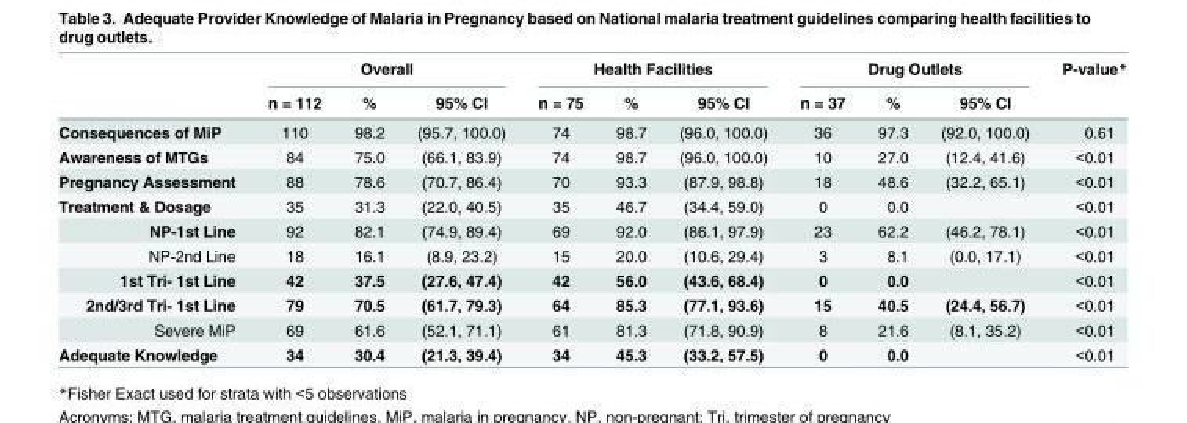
<table><thead><tr><td rowspan="2"></td><td colspan="3">Overall</td><td colspan="3">Health Facilities</td><td colspan="3">Drug Outlets</td><td rowspan="2">P-value*</td></tr><tr><td>n = 112</td><td>%</td><td>95% CI</td><td>n = 75</td><td>%</td><td>95% CI</td><td>n = 37</td><td>%</td><td>95% CI</td></tr></thead><tbody><tr><td>Consequences of MiP</td><td>110</td><td>98.2</td><td>(95.7, 100.0)</td><td>74</td><td>98.7</td><td>(96.0, 100.0)</td><td>36</td><td>97.3</td><td>(92.0, 100.0)</td><td>0.61</td></tr><tr><td>Awareness of MTGs</td><td>84</td><td>75.0</td><td>(66.1, 83.9)</td><td>74</td><td>98.7</td><td>(96.0, 100.0)</td><td>10</td><td>27.0</td><td>(12.4, 41.6)</td><td>&lt;0.01</td></tr><tr><td>Pregnancy Assessment</td><td>88</td><td>78.6</td><td>(70.7, 86.4)</td><td>70</td><td>93.3</td><td>(87.9, 98.8)</td><td>18</td><td>48.6</td><td>(32.2, 65.1)</td><td>&lt;0.01</td></tr><tr><td>Treatment &amp; Dosage</td><td>35</td><td>31.3</td><td>(22.0, 40.5)</td><td>35</td><td>46.7</td><td>(34.4, 59.0)</td><td>0</td><td>0.0</td><td></td><td>&lt;0.01</td></tr><tr><td>NP-1st Line</td><td>92</td><td>82.1</td><td>(74.9, 89.4)</td><td>69</td><td>92.0</td><td>(86.1, 97.9)</td><td>23</td><td>62.2</td><td>(46.2, 78.1)</td><td>&lt;0.01</td></tr><tr><td>NP-2nd Line</td><td>18</td><td>16.1</td><td>(8.9, 23.2)</td><td>15</td><td>20.0</td><td>(10.6, 29.4)</td><td>3</td><td>8.1</td><td>(0.0, 17.1)</td><td>&lt;0.01</td></tr><tr><td>1st Tri- 1st Line</td><td>42</td><td>37.5</td><td>(27.6, 47.4)</td><td>42</td><td>56.0</td><td>(43.6, 68.4)</td><td>0</td><td>0.0</td><td></td><td>&lt;0.01</td></tr><tr><td>2nd/3rd Tri- 1st Line</td><td>79</td><td>70.5</td><td>(61.7, 79.3)</td><td>64</td><td>85.3</td><td>(77.1, 93.6)</td><td>15</td><td>40.5</td><td>(24.4, 56.7)</td><td>&lt;0.01</td></tr><tr><td>Severe MiP</td><td>69</td><td>61.6</td><td>(52.1, 71.1)</td><td>61</td><td>81.3</td><td>(71.8, 90.9)</td><td>8</td><td>21.6</td><td>(8.1, 35.2)</td><td>&lt;0.01</td></tr><tr><td>Adequate Knowledge</td><td>34</td><td>30.4</td><td>(21.3, 39.4)</td><td>34</td><td>45.3</td><td>(33.2, 57.5)</td><td>0</td><td>0.0</td><td></td><td>&lt;0.01</td></tr></tbody></table>